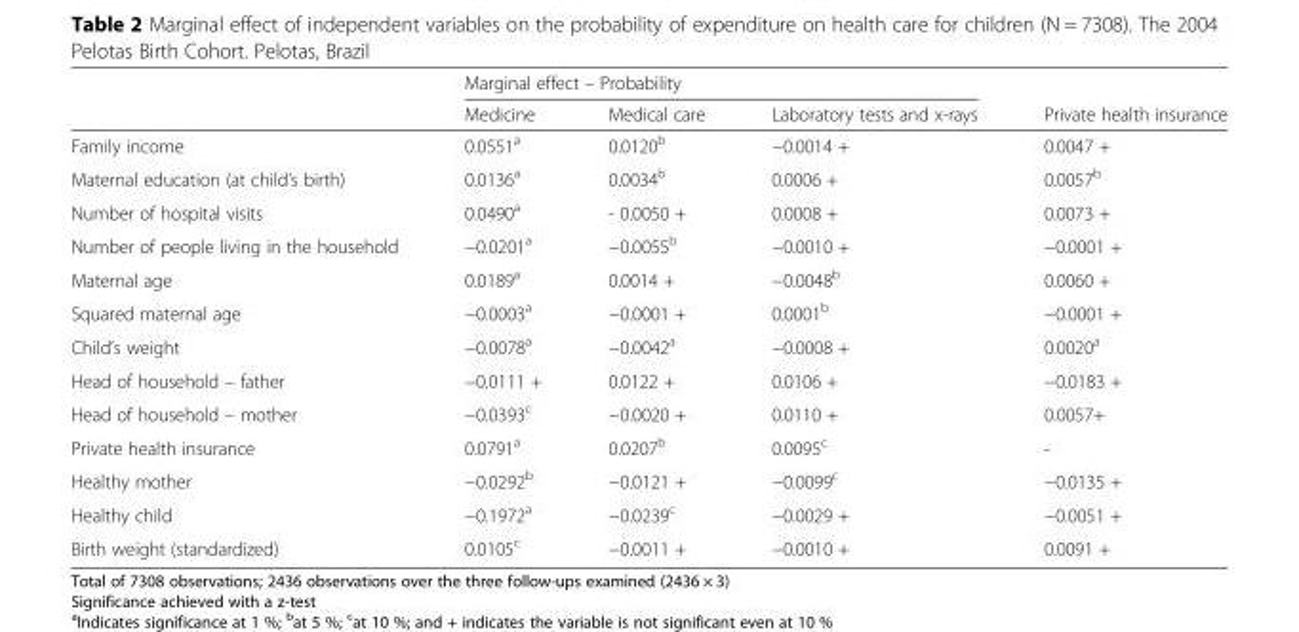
<table><thead><tr><td rowspan="2"></td><td colspan="3">Marginal effect – Probability</td><td rowspan="2">Private health insurance</td></tr><tr><td>Medicine</td><td>Medical care</td><td>Laboratory tests and x-rays</td></tr></thead><tbody><tr><td>Family income</td><td>0.0551<sup>a</sup></td><td>0.0120<sup>b</sup></td><td>−0.0014 +</td><td>0.0047 +</td></tr><tr><td>Maternal education (at child’s birth)</td><td>0.0136<sup>a</sup></td><td>0.0034<sup>b</sup></td><td>0.0006 +</td><td>0.0057<sup>b</sup></td></tr><tr><td>Number of hospital visits</td><td>0.0490<sup>a</sup></td><td>- 0.0050 +</td><td>0.0008 +</td><td>0.0073 +</td></tr><tr><td>Number of people living in the household</td><td>−0.0201<sup>a</sup></td><td>−0.0055<sup>b</sup></td><td>−0.0010 +</td><td>−0.0001 +</td></tr><tr><td>Maternal age</td><td>0.0189<sup>a</sup></td><td>0.0014 +</td><td>−0.0048<sup>b</sup></td><td>0.0060 +</td></tr><tr><td>Squared maternal age</td><td>−0.0003<sup>a</sup></td><td>−0.0001 +</td><td>0.0001<sup>b</sup></td><td>−0.0001 +</td></tr><tr><td>Child’s weight</td><td>−0.0078<sup>a</sup></td><td>−0.0042<sup>a</sup></td><td>−0.0008 +</td><td>0.0020<sup>a</sup></td></tr><tr><td>Head of household – father</td><td>−0.0111 +</td><td>0.0122 +</td><td>0.0106 +</td><td>−0.0183 +</td></tr><tr><td>Head of household – mother</td><td>−0.0393<sup>c</sup></td><td>−0.0020 +</td><td>0.0110 +</td><td>0.0057+</td></tr><tr><td>Private health insurance</td><td>0.0791<sup>a</sup></td><td>0.0207<sup>b</sup></td><td>0.0095<sup>c</sup></td><td>-</td></tr><tr><td>Healthy mother</td><td>−0.0292<sup>b</sup></td><td>−0.0121 +</td><td>−0.0099<sup>c</sup></td><td>−0.0135 +</td></tr><tr><td>Healthy child</td><td>−0.1972<sup>a</sup></td><td>−0.0239<sup>c</sup></td><td>−0.0029 +</td><td>−0.0051 +</td></tr><tr><td>Birth weight (standardized)</td><td>0.0105<sup>c</sup></td><td>−0.0011 +</td><td>−0.0010 +</td><td>0.0091 +</td></tr></tbody></table>